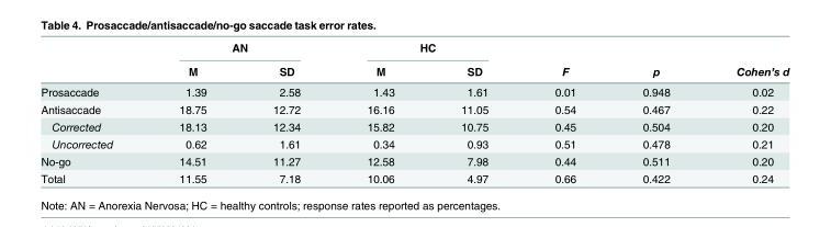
<table><thead><tr><td rowspan="2"></td><td colspan="2">AN</td><td colspan="2">HC</td><td rowspan="2">F</td><td rowspan="2">p</td><td rowspan="2">Cohen’s d</td></tr><tr><td>M</td><td>SD</td><td>M</td><td>SD</td></tr></thead><tbody><tr><td>Prosaccade</td><td>1.39</td><td>2.58</td><td>1.43</td><td>1.61</td><td>0.01</td><td>0.948</td><td>0.02</td></tr><tr><td>Antisaccade</td><td>18.75</td><td>12.72</td><td>16.16</td><td>11.05</td><td>0.54</td><td>0.467</td><td>0.22</td></tr><tr><td>Corrected</td><td>18.13</td><td>12.34</td><td>15.82</td><td>10.75</td><td>0.45</td><td>0.504</td><td>0.20</td></tr><tr><td>Uncorrected</td><td>0.62</td><td>1.61</td><td>0.34</td><td>0.93</td><td>0.51</td><td>0.478</td><td>0.21</td></tr><tr><td>No-go</td><td>14.51</td><td>11.27</td><td>12.58</td><td>7.98</td><td>0.44</td><td>0.511</td><td>0.20</td></tr><tr><td>Total</td><td>11.55</td><td>7.18</td><td>10.06</td><td>4.97</td><td>0.66</td><td>0.422</td><td>0.24</td></tr></tbody></table>